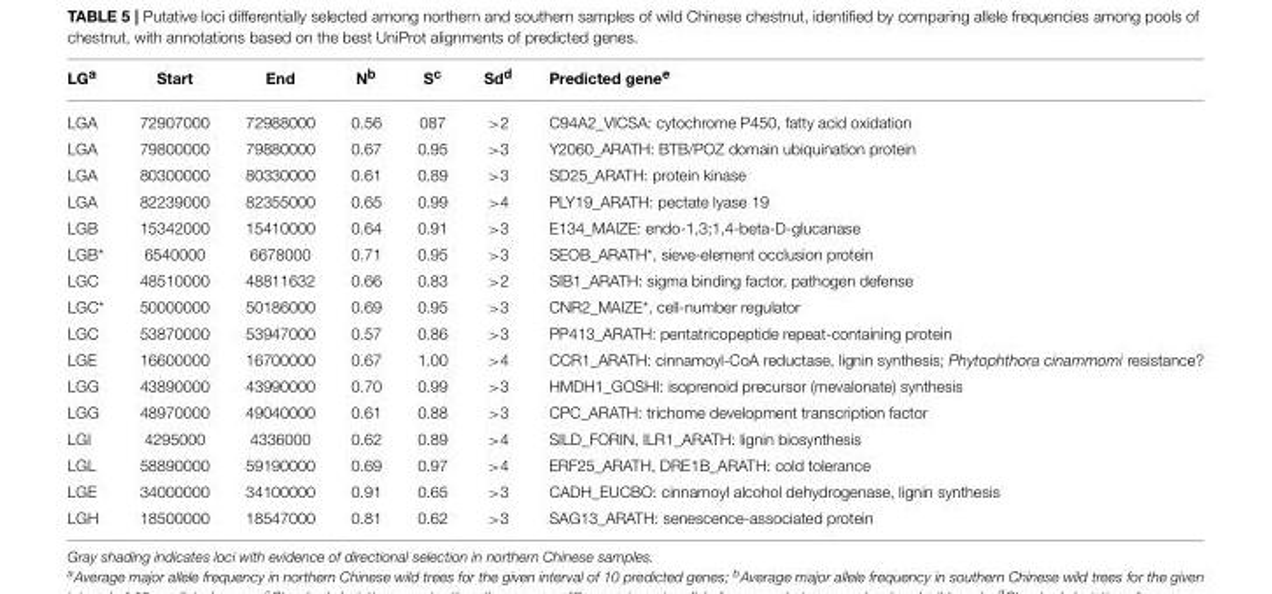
<table><thead><tr><td>LG<sup>a</sup></td><td>Start</td><td>End</td><td>N<sup>b</sup></td><td>S<sup>c</sup></td><td>Sd<sup>d</sup></td><td>Predicted gene<sup>e</sup></td></tr></thead><tbody><tr><td>LGA</td><td>72907000</td><td>72988000</td><td>0.56</td><td>087</td><td>&gt;2</td><td>C94A2_VICSA: cytochrome P450, fatty acid oxidation</td></tr><tr><td>LGA</td><td>79800000</td><td>79880000</td><td>0.67</td><td>0.95</td><td>&gt;3</td><td>Y2060_ARATH: BTB/POZ domain ubiquination protein</td></tr><tr><td>LGA</td><td>80300000</td><td>80330000</td><td>0.61</td><td>0.89</td><td>&gt;3</td><td>SD25_ARATH: protein kinase</td></tr><tr><td>LGA</td><td>82239000</td><td>82355000</td><td>0.65</td><td>0.99</td><td>&gt;4</td><td>PLY19_ARATH: pectate lyase 19</td></tr><tr><td>LGB</td><td>15342000</td><td>15410000</td><td>0.64</td><td>0.91</td><td>&gt;3</td><td>E134_MAIZE: endo-1,3;1,4-beta-D-glucanase</td></tr><tr><td>LGB*</td><td>6540000</td><td>6678000</td><td>0.71</td><td>0.95</td><td>&gt;3</td><td>SEOB_ARATH*, sieve-element occlusion protein</td></tr><tr><td>LGC</td><td>48510000</td><td>48811632</td><td>0.66</td><td>0.83</td><td>&gt;2</td><td>SIB1_ARATH: sigma binding factor, pathogen defense</td></tr><tr><td>LGC*</td><td>50000000</td><td>50186000</td><td>0.69</td><td>0.95</td><td>&gt;3</td><td>CNR2_MAIZE*, cell-number regulator</td></tr><tr><td>LGC</td><td>53870000</td><td>53947000</td><td>0.57</td><td>0.86</td><td>&gt;3</td><td>PP413_ARATH: pentatricopeptide repeat-containing protein</td></tr><tr><td>LGE</td><td>16600000</td><td>16700000</td><td>0.67</td><td>1.00</td><td>&gt;4</td><td>CCR1_ARATH: cinnamoyl-CoA reductase, lignin synthesis; Phytophthora cinammomi resistance?</td></tr><tr><td>LGG</td><td>43890000</td><td>43990000</td><td>0.70</td><td>0.99</td><td>&gt;3</td><td>HMDH1_GOSHI: isoprenoid precursor (mevalonate) synthesis</td></tr><tr><td>LGG</td><td>48970000</td><td>49040000</td><td>0.61</td><td>0.88</td><td>&gt;3</td><td>CPC_ARATH: trichome development transcription factor</td></tr><tr><td>LGI</td><td>4295000</td><td>4336000</td><td>0.62</td><td>0.89</td><td>&gt;4</td><td>SILD_FORIN, ILR1_ARATH: lignin biosynthesis</td></tr><tr><td>LGL</td><td>58890000</td><td>59190000</td><td>0.69</td><td>0.97</td><td>&gt;4</td><td>ERF25_ARATH, DRE1B_ARATH: cold tolerance</td></tr><tr><td>LGE</td><td>34000000</td><td>34100000</td><td>0.91</td><td>0.65</td><td>&gt;3</td><td>CADH_EUCBO: cinnamoyl alcohol dehydrogenase, lignin synthesis</td></tr><tr><td>LGH</td><td>18500000</td><td>18547000</td><td>0.81</td><td>0.62</td><td>&gt;3</td><td>SAG13_ARATH: senescence-associated protein</td></tr></tbody></table>